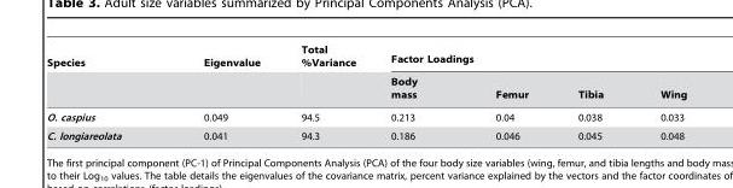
<table><thead><tr><td rowspan="2">Species</td><td rowspan="2">Eigenvalue</td><td rowspan="2">Total %Variance</td><td colspan="4">Factor Loadings</td></tr><tr><td>Body mass</td><td>Femur</td><td>Tibia</td><td>Wing</td></tr></thead><tbody><tr><td>O. caspius</td><td>0.049</td><td>94.5</td><td>0.213</td><td>0.04</td><td>0.038</td><td>0.033</td></tr><tr><td>C. longiareolata</td><td>0.041</td><td>94.3</td><td>0.186</td><td>0.046</td><td>0.045</td><td>0.048</td></tr></tbody></table>